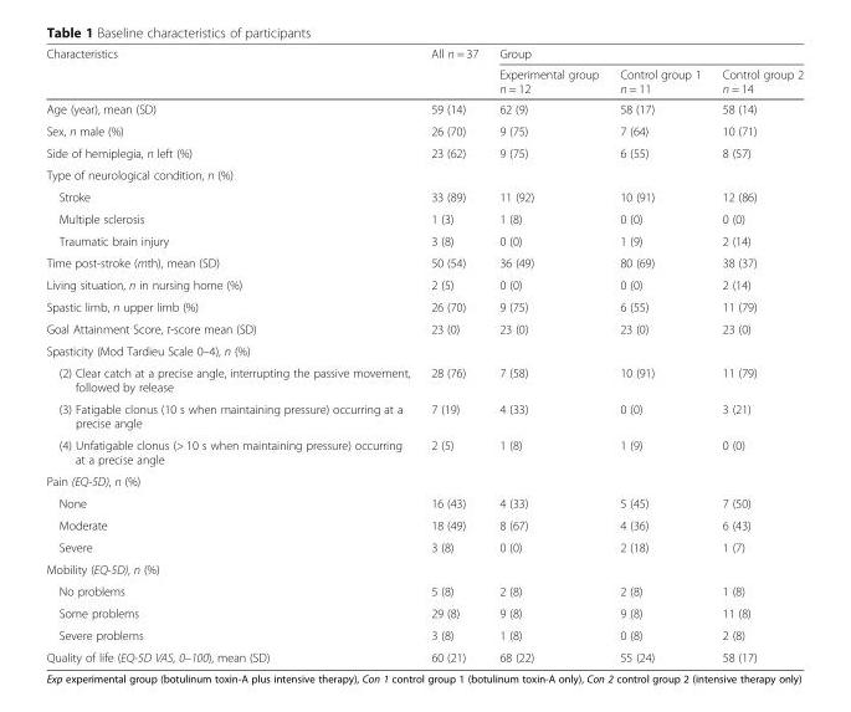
<table><thead><tr><td rowspan="2">Characteristics</td><td rowspan="2">All n = 37</td><td colspan="3">Group</td></tr><tr><td>Experimental group n = 12</td><td>Control group 1 n = 11</td><td>Control group 2 n = 14</td></tr></thead><tbody><tr><td>Age (year), mean (SD)</td><td>59 (14)</td><td>62 (9)</td><td>58 (17)</td><td>58 (14)</td></tr><tr><td>Sex, n male (%)</td><td>26 (70)</td><td>9 (75)</td><td>7 (64)</td><td>10 (71)</td></tr><tr><td>Side of hemiplegia, n left (%)</td><td>23 (62)</td><td>9 (75)</td><td>6 (55)</td><td>8 (57)</td></tr><tr><td colspan="5">Type of neurological condition, n (%)</td></tr><tr><td>Stroke</td><td>33 (89)</td><td>11 (92)</td><td>10 (91)</td><td>12 (86)</td></tr><tr><td>Multiple sclerosis</td><td>1 (3)</td><td>1 (8)</td><td>0 (0)</td><td>0 (0)</td></tr><tr><td>Traumatic brain injury</td><td>3 (8)</td><td>0 (0)</td><td>1 (9)</td><td>2 (14)</td></tr><tr><td>Time post-stroke (mth), mean (SD)</td><td>50 (54)</td><td>36 (49)</td><td>80 (69)</td><td>38 (37)</td></tr><tr><td>Living situation, n in nursing home (%)</td><td>2 (5)</td><td>0 (0)</td><td>0 (0)</td><td>2 (14)</td></tr><tr><td>Spastic limb, n upper limb (%)</td><td>26 (70)</td><td>9 (75)</td><td>6 (55)</td><td>11 (79)</td></tr><tr><td>Goal Attainment Score, t-score mean (SD)</td><td>23 (0)</td><td>23 (0)</td><td>23 (0)</td><td>23 (0)</td></tr><tr><td colspan="5">Spasticity (Mod Tardieu Scale 0–4), n (%)</td></tr><tr><td>(2) Clear catch at a precise angle, interrupting the passive movement, followed by release</td><td>28 (76)</td><td>7 (58)</td><td>10 (91)</td><td>11 (79)</td></tr><tr><td>(3) Fatigable clonus (10 s when maintaining pressure) occurring at a precise angle</td><td>7 (19)</td><td>4 (33)</td><td>0 (0)</td><td>3 (21)</td></tr><tr><td>(4) Unfatigable clonus (&gt; 10 s when maintaining pressure) occurring at a precise angle</td><td>2 (5)</td><td>1 (8)</td><td>1 (9)</td><td>0 (0)</td></tr><tr><td colspan="5">Pain (EQ-5D), n (%)</td></tr><tr><td>None</td><td>16 (43)</td><td>4 (33)</td><td>5 (45)</td><td>7 (50)</td></tr><tr><td>Moderate</td><td>18 (49)</td><td>8 (67)</td><td>4 (36)</td><td>6 (43)</td></tr><tr><td>Severe</td><td>3 (8)</td><td>0 (0)</td><td>2 (18)</td><td>1 (7)</td></tr><tr><td colspan="5">Mobility (EQ-5D), n (%)</td></tr><tr><td>No problems</td><td>5 (8)</td><td>2 (8)</td><td>2 (8)</td><td>1 (8)</td></tr><tr><td>Some problems</td><td>29 (8)</td><td>9 (8)</td><td>9 (8)</td><td>11 (8)</td></tr><tr><td>Severe problems</td><td>3 (8)</td><td>1 (8)</td><td>0 (8)</td><td>2 (8)</td></tr><tr><td>Quality of life (EQ-5D VAS, 0–100), mean (SD)</td><td>60 (21)</td><td>68 (22)</td><td>55 (24)</td><td>58 (17)</td></tr></tbody></table>